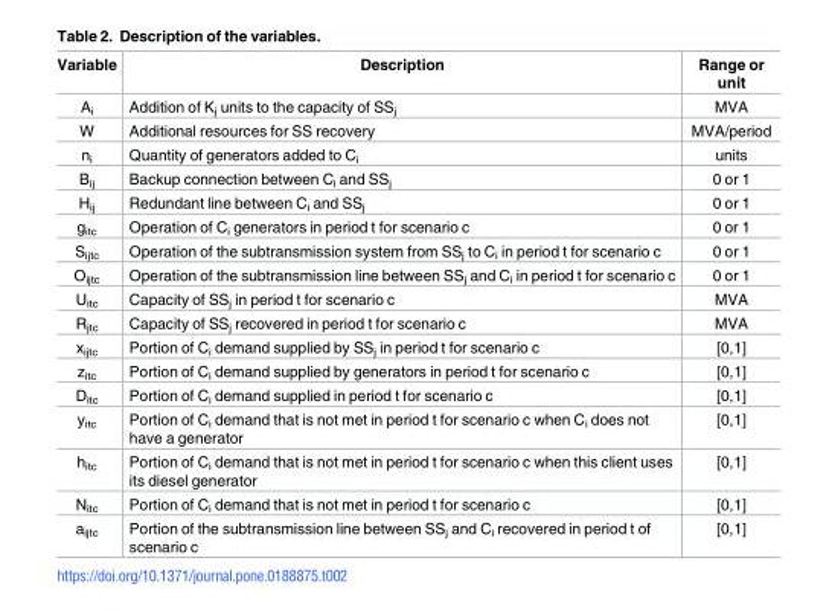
<table><thead><tr><td>Variable</td><td>Description</td><td>Range or unit</td></tr></thead><tbody><tr><td>A<sub>i</sub></td><td>Addition of K<sub>j</sub> units to the capacity of SS<sub>j</sub></td><td>MVA</td></tr><tr><td>W</td><td>Additional resources for SS recovery</td><td>MVA/period</td></tr><tr><td>n<sub>i</sub></td><td>Quantity of generators added to C<sub>i</sub></td><td>units</td></tr><tr><td>B<sub>ij</sub></td><td>Backup connection between C<sub>i</sub> and SS<sub>j</sub></td><td>0 or 1</td></tr><tr><td>H<sub>ij</sub></td><td>Redundant line between C<sub>i</sub> and SS<sub>j</sub></td><td>0 or 1</td></tr><tr><td>g<sub>itc</sub></td><td>Operation of C<sub>i</sub> generators in period t for scenario c</td><td>0 or 1</td></tr><tr><td>S<sub>ijtc</sub></td><td>Operation of the subtransmission system from SS<sub>j</sub> to C<sub>i</sub> in period t for scenario c</td><td>0 or 1</td></tr><tr><td>O<sub>ijtc</sub></td><td>Operation of the subtransmission line between SS<sub>j</sub> and C<sub>i</sub> in period t for scenario c</td><td>0 or 1</td></tr><tr><td>U<sub>itc</sub></td><td>Capacity of SS<sub>j</sub> in period t for scenario c</td><td>MVA</td></tr><tr><td>R<sub>jtc</sub></td><td>Capacity of SS<sub>j</sub> recovered in period t for scenario c</td><td>MVA</td></tr><tr><td>x<sub>ijtc</sub></td><td>Portion of C<sub>i</sub> demand supplied by SS<sub>j</sub> in period t for scenario c</td><td>[0,1]</td></tr><tr><td>z<sub>itc</sub></td><td>Portion of C<sub>i</sub> demand supplied by generators in period t for scenario c</td><td>[0,1]</td></tr><tr><td>D<sub>itc</sub></td><td>Portion of C<sub>i</sub> demand supplied in period t for scenario c</td><td>[0,1]</td></tr><tr><td>y<sub>itc</sub></td><td>Portion of C<sub>i</sub> demand that is not met in period t for scenario c when C<sub>i</sub> does not have a generator</td><td>[0,1]</td></tr><tr><td>h<sub>itc</sub></td><td>Portion of C<sub>i</sub> demand that is not met in period t for scenario c when this client uses its diesel generator</td><td>[0,1]</td></tr><tr><td>N<sub>itc</sub></td><td>Portion of C<sub>i</sub> demand that is not met in period t for scenario c</td><td>[0,1]</td></tr><tr><td>a<sub>ijtc</sub></td><td>Portion of the subtransmission line between SS<sub>j</sub> and C<sub>i</sub> recovered in period t of scenario c</td><td>[0,1]</td></tr></tbody></table>